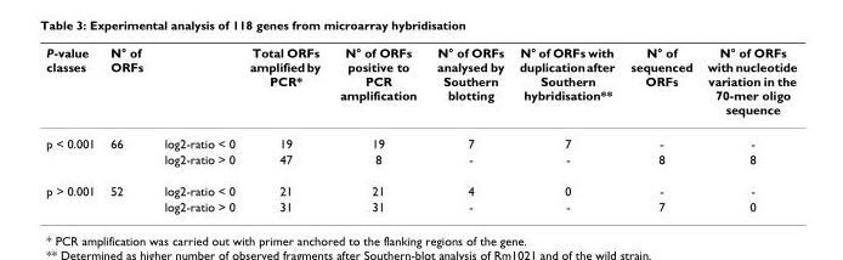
<table><thead><tr><td>P-value classes</td><td>N° of ORFs</td><td></td><td>Total ORFs amplified by PCR*</td><td>N° of ORFs positive to PCR amplification</td><td>N° of ORFs analysed by Southern blotting</td><td>N° of ORFs with duplication after Southern hybridisation**</td><td>N° of sequenced ORFs</td><td>N° of ORFs with nucleotide variation in the 70-mer oligo sequence</td></tr></thead><tbody><tr><td rowspan="2">p &lt; 0.001</td><td>66</td><td>log2-ratio &lt; 0</td><td>19</td><td>19</td><td>7</td><td>7</td><td>-</td><td>-</td></tr><tr><td></td><td>log2-ratio &gt; 0</td><td>47</td><td>8</td><td>-</td><td>-</td><td>8</td><td>8</td></tr><tr><td rowspan="2">p &gt; 0.001</td><td>52</td><td>log2-ratio &lt; 0</td><td>21</td><td>21</td><td>4</td><td>0</td><td>-</td><td>-</td></tr><tr><td></td><td>log2-ratio &gt; 0</td><td>31</td><td>31</td><td>-</td><td>-</td><td>7</td><td>0</td></tr></tbody></table>